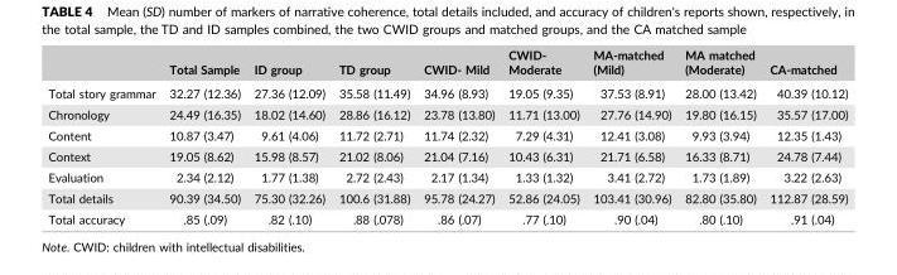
<table><thead><tr><td></td><td>Total Sample</td><td>ID group</td><td>TD group</td><td>CWID‐ Mild</td><td>CWID‐ Moderate</td><td>MA‐matched (Mild)</td><td>MA matched (Moderate)</td><td>CA‐matched</td></tr></thead><tbody><tr><td>Total story grammar</td><td>32.27 (12.36)</td><td>27.36 (12.09)</td><td>35.58 (11.49)</td><td>34.96 (8.93)</td><td>19.05 (9.35)</td><td>37.53 (8.91)</td><td>28.00 (13.42)</td><td>40.39 (10.12)</td></tr><tr><td>Chronology</td><td>24.49 (16.35)</td><td>18.02 (14.60)</td><td>28.86 (16.12)</td><td>23.78 (13.80)</td><td>11.71 (13.00)</td><td>27.76 (14.90)</td><td>19.80 (16.15)</td><td>35.57 (17.00)</td></tr><tr><td>Content</td><td>10.87 (3.47)</td><td>9.61 (4.06)</td><td>11.72 (2.71)</td><td>11.74 (2.32)</td><td>7.29 (4.31)</td><td>12.41 (3.08)</td><td>9.93 (3.94)</td><td>12.35 (1.43)</td></tr><tr><td>Context</td><td>19.05 (8.62)</td><td>15.98 (8.57)</td><td>21.02 (8.06)</td><td>21.04 (7.16)</td><td>10.43 (6.31)</td><td>21.71 (6.58)</td><td>16.33 (8.71)</td><td>24.78 (7.44)</td></tr><tr><td>Evaluation</td><td>2.34 (2.12)</td><td>1.77 (1.38)</td><td>2.72 (2.43)</td><td>2.17 (1.34)</td><td>1.33 (1.32)</td><td>3.41 (2.72)</td><td>1.73 (1.89)</td><td>3.22 (2.63)</td></tr><tr><td>Total details</td><td>90.39 (34.50)</td><td>75.30 (32.26)</td><td>100.6 (31.88)</td><td>95.78 (24.27)</td><td>52.86 (24.05)</td><td>103.41 (30.96)</td><td>82.80 (35.80)</td><td>112.87 (28.59)</td></tr><tr><td>Total accuracy</td><td>.85 (.09)</td><td>.82 (.10)</td><td>.88 (.078)</td><td>.86 (.07)</td><td>.77 (.10)</td><td>.90 (.04)</td><td>.80 (.10)</td><td>.91 (.04)</td></tr></tbody></table>